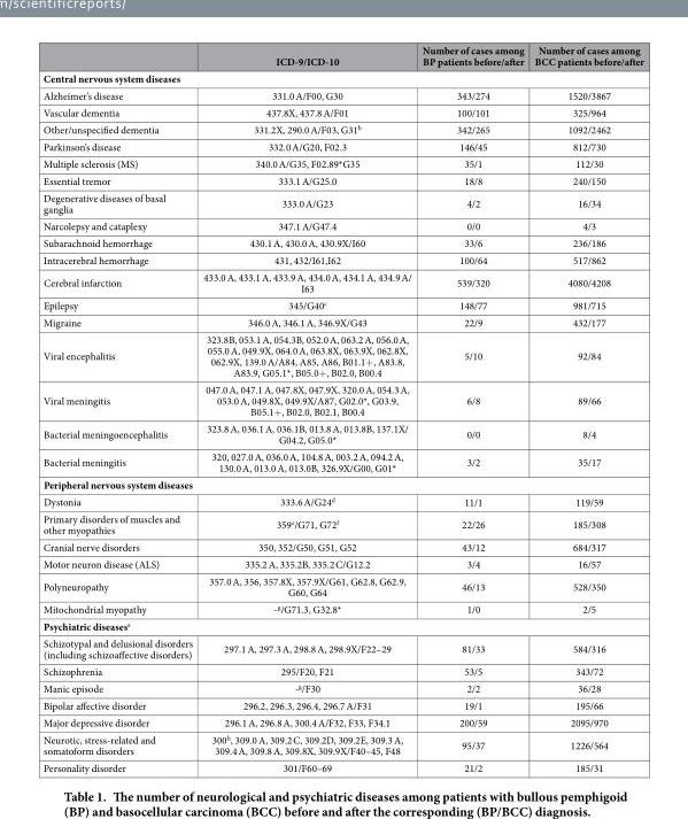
<table><thead><tr><td></td><td>ICD-9/ICD-10</td><td>Number of cases among BP patients before/after</td><td>Number of cases among BCC patients before/after</td></tr></thead><tbody><tr><td colspan="4">Central nervous system diseases</td></tr><tr><td>Alzheimer’s disease</td><td>331.0 A/F00, G30</td><td>343/274</td><td>1520/3867</td></tr><tr><td>Vascular dementia</td><td>437.8X, 437.8 A/F01</td><td>100/101</td><td>325/964</td></tr><tr><td>Other/unspecified dementia</td><td>331.2X, 290.0 A/F03, G31<sup>b</sup></td><td>342/265</td><td>1092/2462</td></tr><tr><td>Parkinson’s disease</td><td>332.0 A/G20, F02.3</td><td>146/45</td><td>812/730</td></tr><tr><td>Multiple sclerosis (MS)</td><td>340.0 A/G35, F02.89*G35</td><td>35/1</td><td>112/30</td></tr><tr><td>Essential tremor</td><td>333.1 A/G25.0</td><td>18/8</td><td>240/150</td></tr><tr><td>Degenerative diseases of basal ganglia</td><td>333.0 A/G23</td><td>4/2</td><td>16/34</td></tr><tr><td>Narcolepsy and cataplexy</td><td>347.1 A/G47.4</td><td>0/0</td><td>4/3</td></tr><tr><td>Subarachnoid hemorrhage</td><td>430.1 A, 430.0 A, 430.9X/I60</td><td>33/6</td><td>236/186</td></tr><tr><td>Intracerebral hemorrhage</td><td>431, 432/I61,I62</td><td>100/64</td><td>517/862</td></tr><tr><td>Cerebral infarction</td><td>433.0 A, 433.1 A, 433.9 A, 434.0 A, 434.1 A, 434.9 A/ I63</td><td>539/320</td><td>4080/4208</td></tr><tr><td>Epilepsy</td><td>345/G40<sup>c</sup></td><td>148/77</td><td>981/715</td></tr><tr><td>Migraine</td><td>346.0 A, 346.1 A, 346.9X/G43</td><td>22/9</td><td>432/177</td></tr><tr><td>Viral encephalitis</td><td>323.8B, 053.1 A, 054.3B, 052.0 A, 063.2 A, 056.0 A, 055.0 A, 049.9X, 064.0 A, 063.8X, 063.9X, 062.8X, 062.9X, 139.0 A/A84, A85, A86, B01.1+ , A83.8, A83.9, G05.1*, B05.0+ , B02.0, B00.4</td><td>5/10</td><td>92/84</td></tr><tr><td>Viral meningitis</td><td>047.0 A, 047.1 A, 047.8X, 047.9X, 320.0 A, 054.3 A, 053.0 A, 049.8X, 049.9X/A87, G02.0*, G03.9, B05.1+ , B02.0, B02.1, B00.4</td><td>6/8</td><td>89/66</td></tr><tr><td>Bacterial meningoencephalitis</td><td>323.8 A, 036.1 A, 036.1B, 013.8 A, 013.8B, 137.1X/ G04.2, G05.0*</td><td>0/0</td><td>8/4</td></tr><tr><td>Bacterial meningitis</td><td>320, 027.0 A, 036.0 A, 104.8 A, 003.2 A, 094.2 A, 130.0 A, 013.0 A, 013.0B, 326.9X/G00, G01*</td><td>3/2</td><td>35/17</td></tr><tr><td colspan="4">Peripheral nervous system diseases</td></tr><tr><td>Dystonia</td><td>333.6 A/G24<sup>d</sup></td><td>11/1</td><td>119/59</td></tr><tr><td>Primary disorders of muscles and other myopathies</td><td>359<sup>e</sup>/G71, G72<sup>f</sup></td><td>22/26</td><td>185/308</td></tr><tr><td>Cranial nerve disorders</td><td>350, 352/G50, G51, G52</td><td>43/12</td><td>684/317</td></tr><tr><td>Motor neuron disease (ALS)</td><td>335.2 A, 335.2B, 335.2 C/G12.2</td><td>3/4</td><td>16/57</td></tr><tr><td>Polyneuropathy</td><td>357.0 A, 356, 357.8X, 357.9X/G61, G62.8, G62.9, G60, G64</td><td>46/13</td><td>528/350</td></tr><tr><td>Mitochondrial myopathy</td><td>-<sup>g</sup>/G71.3, G32.8*</td><td>1/0</td><td>2/5</td></tr><tr><td colspan="4">Psychiatric diseases<sup>a</sup></td></tr><tr><td>Schizotypal and delusional disorders (including schizoaffective disorders)</td><td>297.1 A, 297.3 A, 298.8 A, 298.9X/F22–29</td><td>81/33</td><td>584/316</td></tr><tr><td>Schizophrenia</td><td>295/F20, F21</td><td>53/5</td><td>343/72</td></tr><tr><td>Manic episode</td><td>-<sup>g</sup>/F30</td><td>2/2</td><td>36/28</td></tr><tr><td>Bipolar affective disorder</td><td>296.2, 296.3, 296.4, 296.7 A/F31</td><td>19/1</td><td>195/66</td></tr><tr><td>Major depressive disorder</td><td>296.1 A, 296.8 A, 300.4 A/F32, F33, F34.1</td><td>200/59</td><td>2095/970</td></tr><tr><td>Neurotic, stress-related and somatoform disorders</td><td>300<sup>h</sup>, 309.0 A, 309.2 C, 309.2D, 309.2E, 309.3 A, 309.4 A, 309.8 A, 309.8X, 309.9X/F40–45, F48</td><td>95/37</td><td>1226/564</td></tr><tr><td>Personality disorder</td><td>301/F60–69</td><td>21/2</td><td>185/31</td></tr></tbody></table>